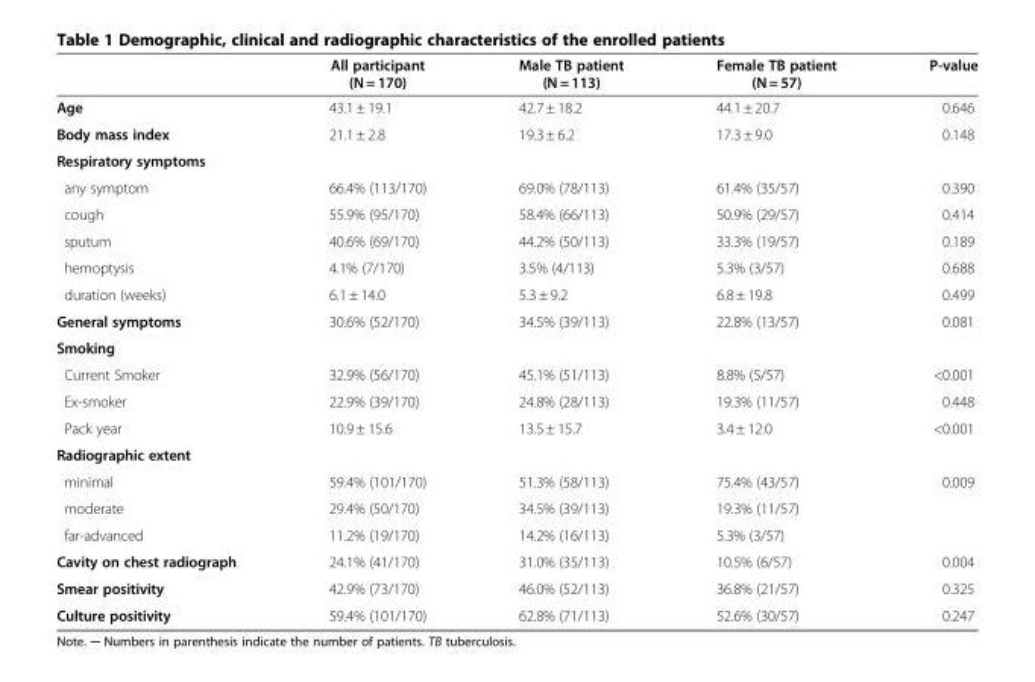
<table><thead><tr><td></td><td>All participant (N = 170)</td><td>Male TB patient (N = 113)</td><td>Female TB patient (N = 57)</td><td>P-value</td></tr></thead><tbody><tr><td>Age</td><td>43.1 ± 19.1</td><td>42.7 ± 18.2</td><td>44.1 ± 20.7</td><td>0.646</td></tr><tr><td>Body mass index</td><td>21.1 ± 2.8</td><td>19.3 ± 6.2</td><td>17.3 ± 9.0</td><td>0.148</td></tr><tr><td colspan="5">Respiratory symptoms</td></tr><tr><td>any symptom</td><td>66.4% (113/170)</td><td>69.0% (78/113)</td><td>61.4% (35/57)</td><td>0.390</td></tr><tr><td>cough</td><td>55.9% (95/170)</td><td>58.4% (66/113)</td><td>50.9% (29/57)</td><td>0.414</td></tr><tr><td>sputum</td><td>40.6% (69/170)</td><td>44.2% (50/113)</td><td>33.3% (19/57)</td><td>0.189</td></tr><tr><td>hemoptysis</td><td>4.1% (7/170)</td><td>3.5% (4/113)</td><td>5.3% (3/57)</td><td>0.688</td></tr><tr><td>duration (weeks)</td><td>6.1 ± 14.0</td><td>5.3 ± 9.2</td><td>6.8 ± 19.8</td><td>0.499</td></tr><tr><td>General symptoms</td><td>30.6% (52/170)</td><td>34.5% (39/113)</td><td>22.8% (13/57)</td><td>0.081</td></tr><tr><td colspan="5">Smoking</td></tr><tr><td>Current Smoker</td><td>32.9% (56/170)</td><td>45.1% (51/113)</td><td>8.8% (5/57)</td><td>&lt;0.001</td></tr><tr><td>Ex-smoker</td><td>22.9% (39/170)</td><td>24.8% (28/113)</td><td>19.3% (11/57)</td><td>0.448</td></tr><tr><td>Pack year</td><td>10.9 ± 15.6</td><td>13.5 ± 15.7</td><td>3.4 ± 12.0</td><td>&lt;0.001</td></tr><tr><td colspan="5">Radiographic extent</td></tr><tr><td>minimal</td><td>59.4% (101/170)</td><td>51.3% (58/113)</td><td>75.4% (43/57)</td><td>0.009</td></tr><tr><td>moderate</td><td>29.4% (50/170)</td><td>34.5% (39/113)</td><td>19.3% (11/57)</td><td></td></tr><tr><td>far-advanced</td><td>11.2% (19/170)</td><td>14.2% (16/113)</td><td>5.3% (3/57)</td><td></td></tr><tr><td>Cavity on chest radiograph</td><td>24.1% (41/170)</td><td>31.0% (35/113)</td><td>10.5% (6/57)</td><td>0.004</td></tr><tr><td>Smear positivity</td><td>42.9% (73/170)</td><td>46.0% (52/113)</td><td>36.8% (21/57)</td><td>0.325</td></tr><tr><td>Culture positivity</td><td>59.4% (101/170)</td><td>62.8% (71/113)</td><td>52.6% (30/57)</td><td>0.247</td></tr></tbody></table>